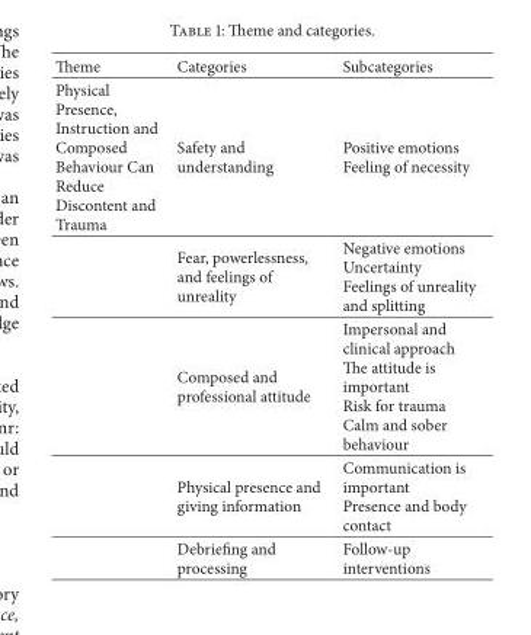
<table><thead><tr><td>Theme</td><td>Categories</td><td>Subcategories</td></tr></thead><tbody><tr><td rowspan="5">Physical Presence, Instruction and Composed Behaviour Can Reduce Discontent and Trauma</td><td>Safety and understanding</td><td>Positive emotions Feeling of necessity</td></tr><tr><td>Fear, powerlessness, and feelings of unreality</td><td>Negative emotions Uncertainty Feelings of unreality and splitting</td></tr><tr><td>Composed and professional attitude</td><td>Impersonal and clinical approach The attitude is important Risk for trauma Calm and sober behaviour</td></tr><tr><td>Physical presence and giving information</td><td>Communication is important Presence and body contact</td></tr><tr><td>Debriefing and processing</td><td>Follow-up interventions</td></tr></tbody></table>